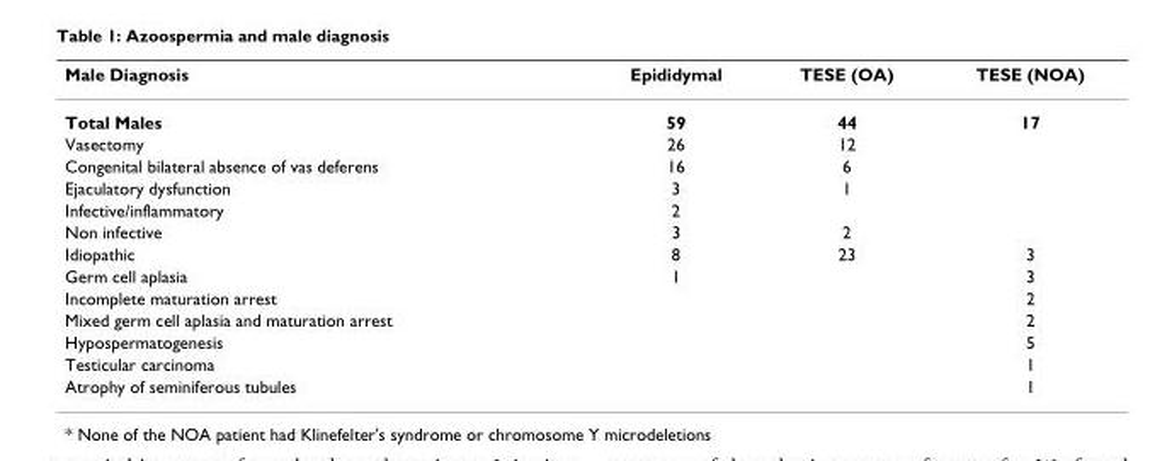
<table><thead><tr><td>Male Diagnosis</td><td>Epididymal</td><td>TESE (OA)</td><td>TESE (NOA)</td></tr></thead><tbody><tr><td>Total Males</td><td>59</td><td>44</td><td>17</td></tr><tr><td>Vasectomy</td><td>26</td><td>12</td><td></td></tr><tr><td>Congenital bilateral absence of vas deferens</td><td>16</td><td>6</td><td></td></tr><tr><td>Ejaculatory dysfunction</td><td>3</td><td>1</td><td></td></tr><tr><td>Infective/inflammatory</td><td>2</td><td></td><td></td></tr><tr><td>Non infective</td><td>3</td><td>2</td><td></td></tr><tr><td>Idiopathic</td><td>8</td><td>23</td><td>3</td></tr><tr><td>Germ cell aplasia</td><td>1</td><td></td><td>3</td></tr><tr><td>Incomplete maturation arrest</td><td></td><td></td><td>2</td></tr><tr><td>Mixed germ cell aplasia and maturation arrest</td><td></td><td></td><td>2</td></tr><tr><td>Hypospermatogenesis</td><td></td><td></td><td>5</td></tr><tr><td>Testicular carcinoma</td><td></td><td></td><td>1</td></tr><tr><td>Atrophy of seminiferous tubules</td><td></td><td></td><td>1</td></tr></tbody></table>